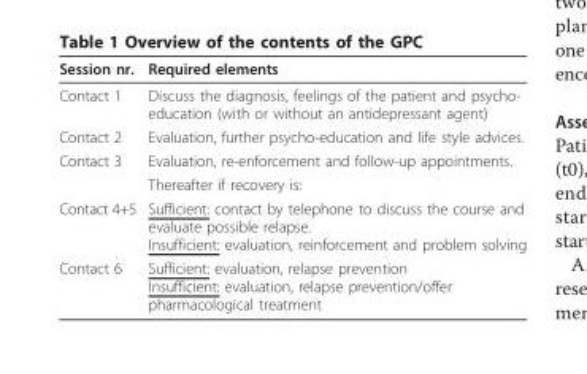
<table><thead><tr><td>Session nr.</td><td>Required elements</td></tr></thead><tbody><tr><td>Contact 1</td><td>Discuss the diagnosis, feelings of the patient and psycho- education (with or without an antidepressant agent)</td></tr><tr><td>Contact 2</td><td>Evaluation, further psycho-education and life style advices.</td></tr><tr><td rowspan="2">Contact 3</td><td>Evaluation, re-enforcement and follow-up appointments.</td></tr><tr><td>Thereafter if recovery is:</td></tr><tr><td>Contact 4+5</td><td>Sufficient: contact by telephone to discuss the course and evaluate possible relapse. Insufficient: evaluation, reinforcement and problem solving</td></tr><tr><td>Contact 6</td><td>Sufficient: evaluation, relapse prevention Insufficient: evaluation, relapse prevention/offer pharmacological treatment</td></tr></tbody></table>